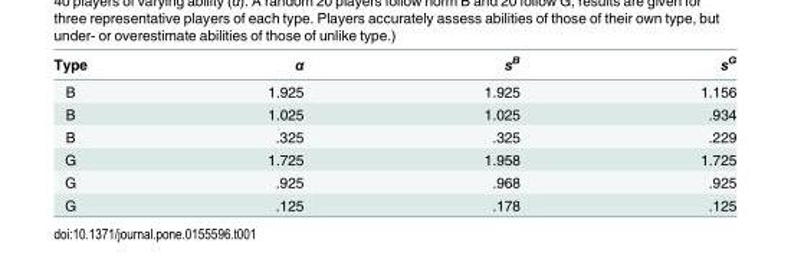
<table><thead><tr><td>Type</td><td>α</td><td>s<sup>B</sup></td><td>s<sup>G</sup></td></tr></thead><tbody><tr><td>B</td><td>1.925</td><td>1.925</td><td>1.156</td></tr><tr><td>B</td><td>1.025</td><td>1.025</td><td>.934</td></tr><tr><td>B</td><td>.325</td><td>.325</td><td>.229</td></tr><tr><td>G</td><td>1.725</td><td>1.958</td><td>1.725</td></tr><tr><td>G</td><td>.925</td><td>.968</td><td>.925</td></tr><tr><td>G</td><td>.125</td><td>.178</td><td>.125</td></tr></tbody></table>